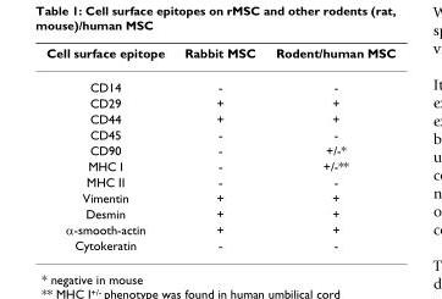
<table><thead><tr><td>Cell surface epitope</td><td>Rabbit MSC</td><td>Rodent/human MSC</td></tr></thead><tbody><tr><td>CD14</td><td>-</td><td>-</td></tr><tr><td>CD29</td><td>+</td><td>+</td></tr><tr><td>CD44</td><td>+</td><td>+</td></tr><tr><td>CD45</td><td>-</td><td>-</td></tr><tr><td>CD90</td><td>-</td><td>+/-*</td></tr><tr><td>MHC I</td><td>-</td><td>+/-**</td></tr><tr><td>MHC II</td><td>-</td><td>-</td></tr><tr><td>Vimentin</td><td>+</td><td>+</td></tr><tr><td>Desmin</td><td>+</td><td>+</td></tr><tr><td>α-smooth-actin</td><td>+</td><td>+</td></tr><tr><td>Cytokeratin</td><td>-</td><td>-</td></tr></tbody></table>